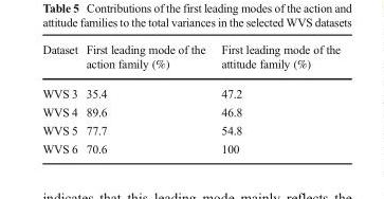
<table><thead><tr><td>Dataset</td><td>First leading mode of the action family (%)</td><td>First leading mode of the attitude family (%)</td></tr></thead><tbody><tr><td>WVS 3</td><td>35.4</td><td>47.2</td></tr><tr><td>WVS 4</td><td>89.6</td><td>46.8</td></tr><tr><td>WVS 5</td><td>77.7</td><td>54.8</td></tr><tr><td>WVS 6</td><td>70.6</td><td>100</td></tr></tbody></table>